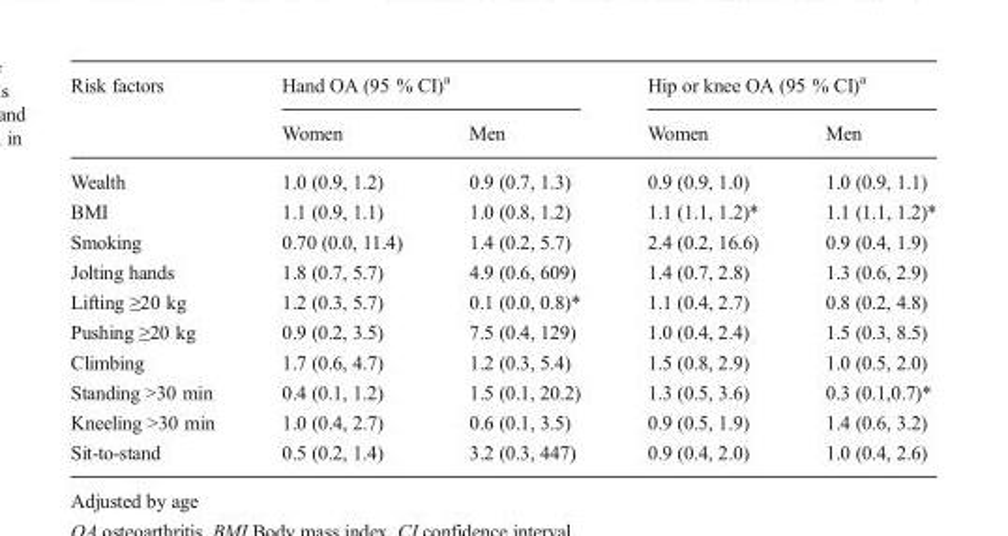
<table><thead><tr><td rowspan="2">Risk factors</td><td colspan="2">Hand OA (95 % CI)<sup>a</sup></td><td colspan="2">Hip or knee OA (95 % CI)<sup>a</sup></td></tr><tr><td>Women</td><td>Men</td><td>Women</td><td>Men</td></tr></thead><tbody><tr><td>Wealth</td><td>1.0 (0.9, 1.2)</td><td>0.9 (0.7, 1.3)</td><td>0.9 (0.9, 1.0)</td><td>1.0 (0.9, 1.1)</td></tr><tr><td>BMI</td><td>1.1 (0.9, 1.1)</td><td>1.0 (0.8, 1.2)</td><td>1.1 (1.1, 1.2)*</td><td>1.1 (1.1, 1.2)*</td></tr><tr><td>Smoking</td><td>0.70 (0.0, 11.4)</td><td>1.4 (0.2, 5.7)</td><td>2.4 (0.2, 16.6)</td><td>0.9 (0.4, 1.9)</td></tr><tr><td>Jolting hands</td><td>1.8 (0.7, 5.7)</td><td>4.9 (0.6, 609)</td><td>1.4 (0.7, 2.8)</td><td>1.3 (0.6, 2.9)</td></tr><tr><td>Lifting ≥20 kg</td><td>1.2 (0.3, 5.7)</td><td>0.1 (0.0, 0.8)*</td><td>1.1 (0.4, 2.7)</td><td>0.8 (0.2, 4.8)</td></tr><tr><td>Pushing ≥20 kg</td><td>0.9 (0.2, 3.5)</td><td>7.5 (0.4, 129)</td><td>1.0 (0.4, 2.4)</td><td>1.5 (0.3, 8.5)</td></tr><tr><td>Climbing</td><td>1.7 (0.6, 4.7)</td><td>1.2 (0.3, 5.4)</td><td>1.5 (0.8, 2.9)</td><td>1.0 (0.5, 2.0)</td></tr><tr><td>Standing &gt;30 min</td><td>0.4 (0.1, 1.2)</td><td>1.5 (0.1, 20.2)</td><td>1.3 (0.5, 3.6)</td><td>0.3 (0.1,0.7)*</td></tr><tr><td>Kneeling &gt;30 min</td><td>1.0 (0.4, 2.7)</td><td>0.6 (0.1, 3.5)</td><td>0.9 (0.5, 1.9)</td><td>1.4 (0.6, 3.2)</td></tr><tr><td>Sit-to-stand</td><td>0.5 (0.2, 1.4)</td><td>3.2 (0.3, 447)</td><td>0.9 (0.4, 2.0)</td><td>1.0 (0.4, 2.6)</td></tr></tbody></table>